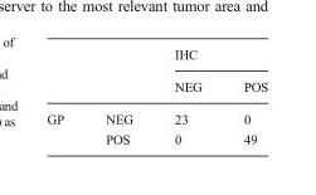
<table><thead><tr><td rowspan="2"></td><td rowspan="2"></td><td colspan="2">IHC</td></tr><tr><td>NEG</td><td>POS</td></tr></thead><tbody><tr><td rowspan="2">GP</td><td>NEG</td><td>23</td><td>0</td></tr><tr><td>POS</td><td>0</td><td>49</td></tr></tbody></table>